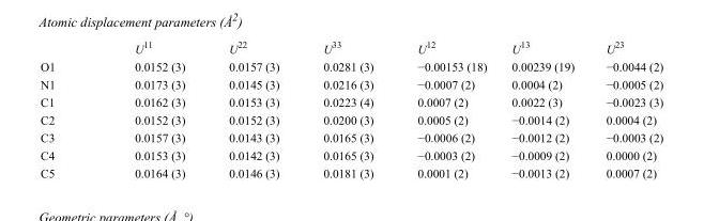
<table><thead><tr><td></td><td>U<sup>11</sup></td><td>U<sup>22</sup></td><td>U<sup>33</sup></td><td>U<sup>12</sup></td><td>U<sup>13</sup></td><td>U<sup>23</sup></td></tr></thead><tbody><tr><td>O1</td><td>0.0152 (3)</td><td>0.0157 (3)</td><td>0.0281 (3)</td><td>−0.00153 (18)</td><td>0.00239 (19)</td><td>−0.0044 (2)</td></tr><tr><td>N1</td><td>0.0173 (3)</td><td>0.0145 (3)</td><td>0.0216 (3)</td><td>−0.0007 (2)</td><td>0.0004 (2)</td><td>−0.0005 (2)</td></tr><tr><td>C1</td><td>0.0162 (3)</td><td>0.0153 (3)</td><td>0.0223 (4)</td><td>0.0007 (2)</td><td>0.0022 (3)</td><td>−0.0023 (3)</td></tr><tr><td>C2</td><td>0.0152 (3)</td><td>0.0152 (3)</td><td>0.0200 (3)</td><td>0.0005 (2)</td><td>−0.0014 (2)</td><td>0.0004 (2)</td></tr><tr><td>C3</td><td>0.0157 (3)</td><td>0.0143 (3)</td><td>0.0165 (3)</td><td>−0.0006 (2)</td><td>−0.0012 (2)</td><td>−0.0003 (2)</td></tr><tr><td>C4</td><td>0.0153 (3)</td><td>0.0142 (3)</td><td>0.0165 (3)</td><td>−0.0003 (2)</td><td>−0.0009 (2)</td><td>0.0000 (2)</td></tr><tr><td>C5</td><td>0.0164 (3)</td><td>0.0146 (3)</td><td>0.0181 (3)</td><td>0.0001 (2)</td><td>−0.0013 (2)</td><td>0.0007 (2)</td></tr></tbody></table>